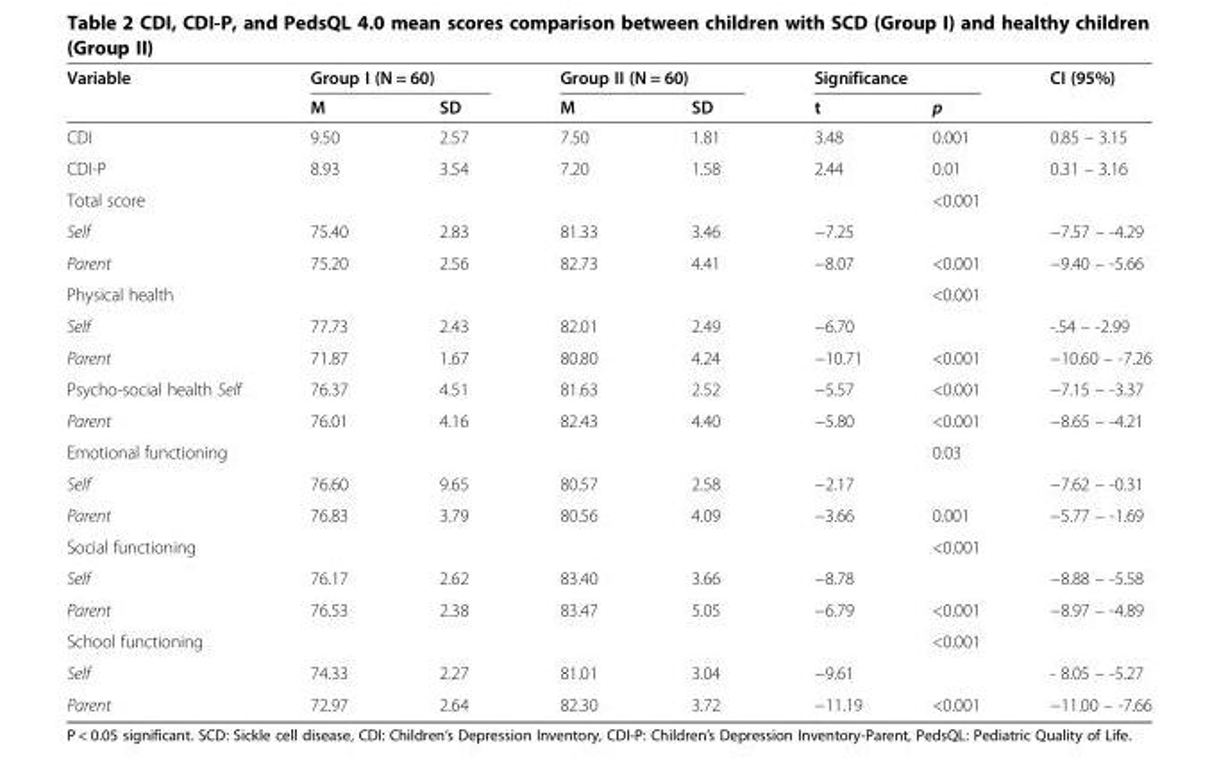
<table><thead><tr><td rowspan="2">Variable</td><td colspan="2">Group I (N = 60)</td><td colspan="2">Group II (N = 60)</td><td colspan="2">Significance</td><td rowspan="2">CI (95%)</td></tr><tr><td>M</td><td>SD</td><td>M</td><td>SD</td><td>t</td><td>p</td></tr></thead><tbody><tr><td>CDI</td><td>9.50</td><td>2.57</td><td>7.50</td><td>1.81</td><td>3.48</td><td>0.001</td><td>0.85 – 3.15</td></tr><tr><td>CDI-P</td><td>8.93</td><td>3.54</td><td>7.20</td><td>1.58</td><td>2.44</td><td>0.01</td><td>0.31 – 3.16</td></tr><tr><td>Total score</td><td></td><td></td><td></td><td></td><td></td><td>&lt;0.001</td><td></td></tr><tr><td>Self</td><td>75.40</td><td>2.83</td><td>81.33</td><td>3.46</td><td>−7.25</td><td></td><td>−7.57 – -4.29</td></tr><tr><td>Parent</td><td>75.20</td><td>2.56</td><td>82.73</td><td>4.41</td><td>−8.07</td><td>&lt;0.001</td><td>−9.40 – -5.66</td></tr><tr><td>Physical health</td><td></td><td></td><td></td><td></td><td></td><td>&lt;0.001</td><td></td></tr><tr><td>Self</td><td>77.73</td><td>2.43</td><td>82.01</td><td>2.49</td><td>−6.70</td><td></td><td>-.54 – -2.99</td></tr><tr><td>Parent</td><td>71.87</td><td>1.67</td><td>80.80</td><td>4.24</td><td>−10.71</td><td>&lt;0.001</td><td>−10.60 – -7.26</td></tr><tr><td>Psycho-social health Self</td><td>76.37</td><td>4.51</td><td>81.63</td><td>2.52</td><td>−5.57</td><td>&lt;0.001</td><td>−7.15 – -3.37</td></tr><tr><td>Parent</td><td>76.01</td><td>4.16</td><td>82.43</td><td>4.40</td><td>−5.80</td><td>&lt;0.001</td><td>−8.65 – -4.21</td></tr><tr><td>Emotional functioning</td><td></td><td></td><td></td><td></td><td></td><td>0.03</td><td></td></tr><tr><td>Self</td><td>76.60</td><td>9.65</td><td>80.57</td><td>2.58</td><td>−2.17</td><td></td><td>−7.62 – -0.31</td></tr><tr><td>Parent</td><td>76.83</td><td>3.79</td><td>80.56</td><td>4.09</td><td>−3.66</td><td>0.001</td><td>−5.77 – -1.69</td></tr><tr><td>Social functioning</td><td></td><td></td><td></td><td></td><td></td><td>&lt;0.001</td><td></td></tr><tr><td>Self</td><td>76.17</td><td>2.62</td><td>83.40</td><td>3.66</td><td>−8.78</td><td></td><td>−8.88 – -5.58</td></tr><tr><td>Parent</td><td>76.53</td><td>2.38</td><td>83.47</td><td>5.05</td><td>−6.79</td><td>&lt;0.001</td><td>−8.97 – -4.89</td></tr><tr><td>School functioning</td><td></td><td></td><td></td><td></td><td></td><td>&lt;0.001</td><td></td></tr><tr><td>Self</td><td>74.33</td><td>2.27</td><td>81.01</td><td>3.04</td><td>−9.61</td><td></td><td>- 8.05 – -5.27</td></tr><tr><td>Parent</td><td>72.97</td><td>2.64</td><td>82.30</td><td>3.72</td><td>−11.19</td><td>&lt;0.001</td><td>−11.00 – -7.66</td></tr></tbody></table>